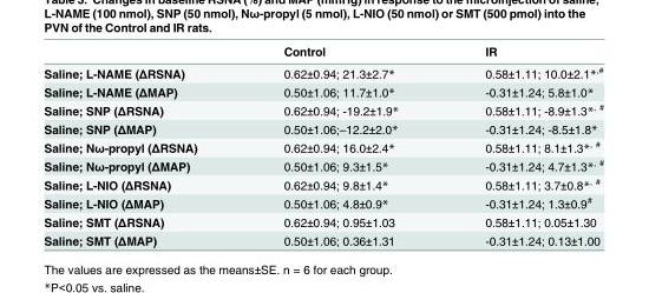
<table><thead><tr><td></td><td>Control</td><td>IR</td></tr></thead><tbody><tr><td>Saline; L-NAME (ΔRSNA)</td><td>0.62±0.94; 21.3±2.7*</td><td>0.58±1.11; 10.0±2.1*<sup>,#</sup></td></tr><tr><td>Saline; L-NAME (ΔMAP)</td><td>0.50±1.06; 11.7±1.0*</td><td>-0.31±1.24; 5.8±1.0*</td></tr><tr><td>Saline; SNP (ΔRSNA)</td><td>0.62±0.94; -19.2±1.9*</td><td>0.58±1.11; -8.9±1.3*<sup>, #</sup></td></tr><tr><td>Saline; SNP (ΔMAP)</td><td>0.50±1.06;–12.2±2.0*</td><td>-0.31±1.24; -8.5±1.8*</td></tr><tr><td>Saline; Nω-propyl (ΔRSNA)</td><td>0.62±0.94; 16.0±2.4*</td><td>0.58±1.11; 8.1±1.3*<sup>, #</sup></td></tr><tr><td>Saline; Nω-propyl (ΔMAP)</td><td>0.50±1.06; 9.3±1.5*</td><td>-0.31±1.24; 4.7±1.3*<sup>, #</sup></td></tr><tr><td>Saline; L-NIO (ΔRSNA)</td><td>0.62±0.94; 9.8±1.4*</td><td>0.58±1.11; 3.7±0.8*<sup>, #</sup></td></tr><tr><td>Saline; L-NIO (ΔMAP)</td><td>0.50±1.06; 4.8±0.9*</td><td>-0.31±1.24; 1.3±0.9<sup>#</sup></td></tr><tr><td>Saline; SMT (ΔRSNA)</td><td>0.62±0.94; 0.95±1.03</td><td>0.58±1.11; 0.05±1.30</td></tr><tr><td>Saline; SMT (ΔMAP)</td><td>0.50±1.06; 0.36±1.31</td><td>-0.31±1.24; 0.13±1.00</td></tr></tbody></table>